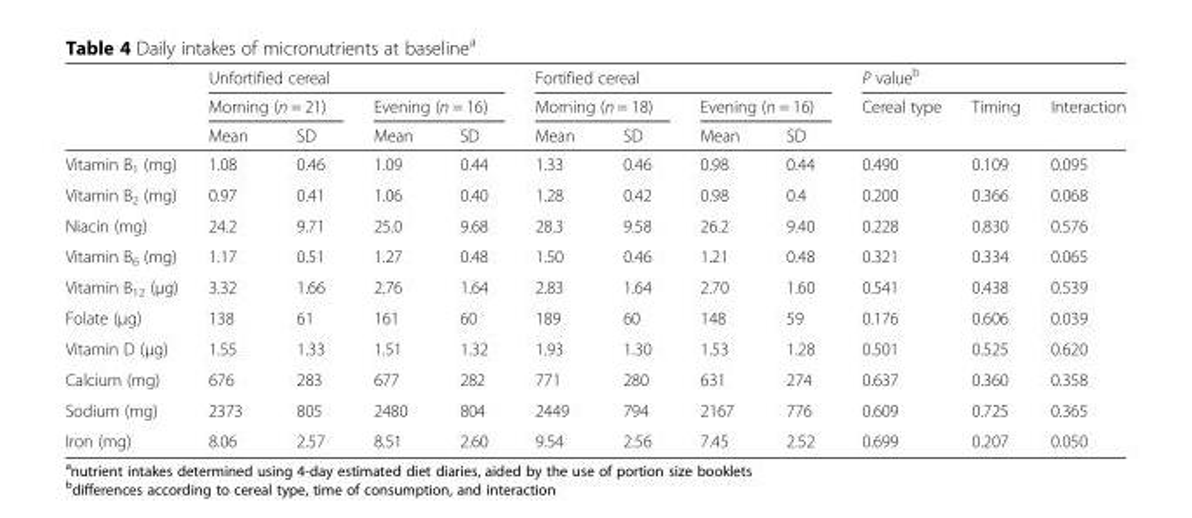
<table><thead><tr><td rowspan="3"></td><td colspan="4">Unfortified cereal</td><td colspan="4">Fortified cereal</td><td colspan="3">P value<sup>b</sup></td></tr><tr><td colspan="2">Morning (n = 21)</td><td colspan="2">Evening (n = 16)</td><td colspan="2">Morning (n = 18)</td><td colspan="2">Evening (n = 16)</td><td rowspan="2">Cereal type</td><td rowspan="2">Timing</td><td rowspan="2">Interaction</td></tr><tr><td>Mean</td><td>SD</td><td>Mean</td><td>SD</td><td>Mean</td><td>SD</td><td>Mean</td><td>SD</td></tr></thead><tbody><tr><td>Vitamin B<sub>1</sub> (mg)</td><td>1.08</td><td>0.46</td><td>1.09</td><td>0.44</td><td>1.33</td><td>0.46</td><td>0.98</td><td>0.44</td><td>0.490</td><td>0.109</td><td>0.095</td></tr><tr><td>Vitamin B<sub>2</sub> (mg)</td><td>0.97</td><td>0.41</td><td>1.06</td><td>0.40</td><td>1.28</td><td>0.42</td><td>0.98</td><td>0.4</td><td>0.200</td><td>0.366</td><td>0.068</td></tr><tr><td>Niacin (mg)</td><td>24.2</td><td>9.71</td><td>25.0</td><td>9.68</td><td>28.3</td><td>9.58</td><td>26.2</td><td>9.40</td><td>0.228</td><td>0.830</td><td>0.576</td></tr><tr><td>Vitamin B<sub>6</sub> (mg)</td><td>1.17</td><td>0.51</td><td>1.27</td><td>0.48</td><td>1.50</td><td>0.46</td><td>1.21</td><td>0.48</td><td>0.321</td><td>0.334</td><td>0.065</td></tr><tr><td>Vitamin B<sub>12</sub> (μg)</td><td>3.32</td><td>1.66</td><td>2.76</td><td>1.64</td><td>2.83</td><td>1.64</td><td>2.70</td><td>1.60</td><td>0.541</td><td>0.438</td><td>0.539</td></tr><tr><td>Folate (μg)</td><td>138</td><td>61</td><td>161</td><td>60</td><td>189</td><td>60</td><td>148</td><td>59</td><td>0.176</td><td>0.606</td><td>0.039</td></tr><tr><td>Vitamin D (μg)</td><td>1.55</td><td>1.33</td><td>1.51</td><td>1.32</td><td>1.93</td><td>1.30</td><td>1.53</td><td>1.28</td><td>0.501</td><td>0.525</td><td>0.620</td></tr><tr><td>Calcium (mg)</td><td>676</td><td>283</td><td>677</td><td>282</td><td>771</td><td>280</td><td>631</td><td>274</td><td>0.637</td><td>0.360</td><td>0.358</td></tr><tr><td>Sodium (mg)</td><td>2373</td><td>805</td><td>2480</td><td>804</td><td>2449</td><td>794</td><td>2167</td><td>776</td><td>0.609</td><td>0.725</td><td>0.365</td></tr><tr><td>Iron (mg)</td><td>8.06</td><td>2.57</td><td>8.51</td><td>2.60</td><td>9.54</td><td>2.56</td><td>7.45</td><td>2.52</td><td>0.699</td><td>0.207</td><td>0.050</td></tr></tbody></table>